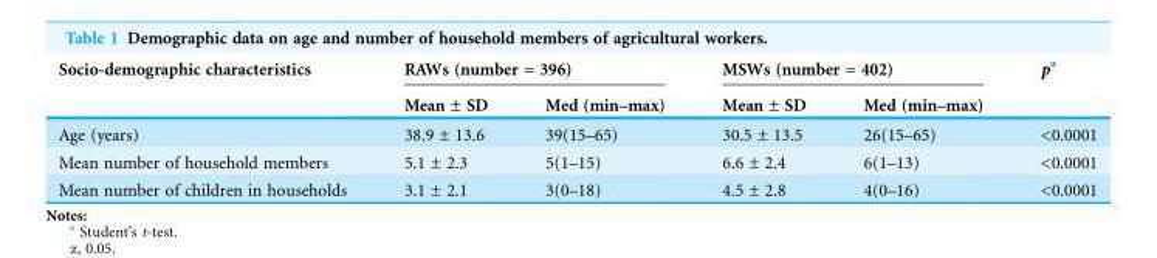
<table><thead><tr><td rowspan="2">Socio-demographic characteristics</td><td colspan="2">RAWs (number = 396)</td><td colspan="2">MSWs (number = 402)</td><td rowspan="2">p<sup>a</sup></td></tr><tr><td>Mean ± SD</td><td>Med (min–max)</td><td>Mean ± SD</td><td>Med (min–max)</td></tr></thead><tbody><tr><td>Age (years)</td><td>38.9 ± 13.6</td><td>39(15–65)</td><td>30.5 ± 13.5</td><td>26(15–65)</td><td>&lt;0.0001</td></tr><tr><td>Mean number of household members</td><td>5.1 ± 2.3</td><td>5(1–15)</td><td>6.6 ± 2.4</td><td>6(1–13)</td><td>&lt;0.0001</td></tr><tr><td>Mean number of children in households</td><td>3.1 ± 2.1</td><td>3(0–18)</td><td>4.5 ± 2.8</td><td>4(0–16)</td><td>&lt;0.0001</td></tr></tbody></table>